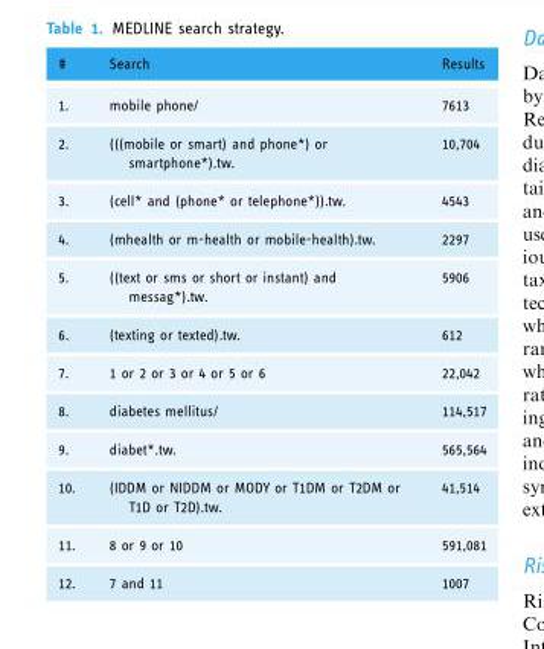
<table><thead><tr><td>#</td><td>Search</td><td>Results</td></tr></thead><tbody><tr><td>1.</td><td>mobile phone/</td><td>7613</td></tr><tr><td>2.</td><td>(((mobile or smart) and phone*) or smartphone*).tw.</td><td>10,704</td></tr><tr><td>3.</td><td>(cell* and (phone* or telephone*)).tw.</td><td>4543</td></tr><tr><td>4.</td><td>(mhealth or m-health or mobile-health).tw.</td><td>2297</td></tr><tr><td>5.</td><td>((text or sms or short or instant) and messag*).tw.</td><td>5906</td></tr><tr><td>6.</td><td>(texting or texted).tw.</td><td>612</td></tr><tr><td>7.</td><td>1 or 2 or 3 or 4 or 5 or 6</td><td>22,042</td></tr><tr><td>8.</td><td>diabetes mellitus/</td><td>114,517</td></tr><tr><td>9.</td><td>diabet*.tw.</td><td>565,564</td></tr><tr><td>10.</td><td>(IDDM or NIDDM or MODY or T1DM or T2DM or T1D or T2D).tw.</td><td>41,514</td></tr><tr><td>11.</td><td>8 or 9 or 10</td><td>591,081</td></tr><tr><td>12.</td><td>7 and 11</td><td>1007</td></tr></tbody></table>